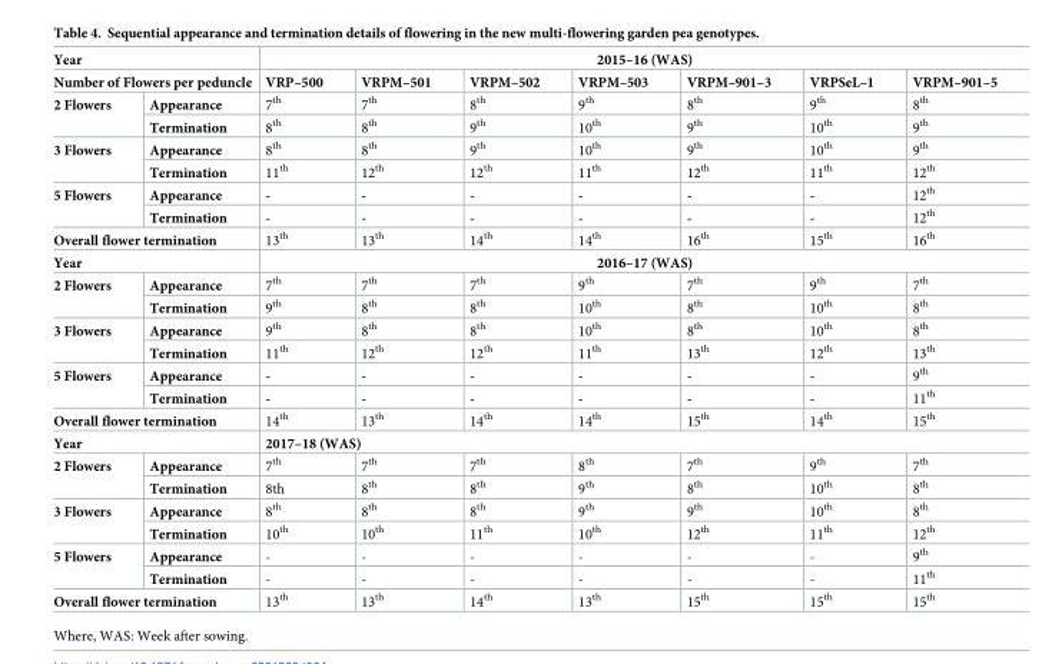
<table><tbody><tr><td colspan="2">Year</td><td colspan="7">2015–16 (WAS)</td></tr><tr><td colspan="2">Number of Flowers per peduncle</td><td>VRP–500</td><td>VRPM–501</td><td>VRPM–502</td><td>VRPM–503</td><td>VRPM–901–3</td><td>VRPSeL–1</td><td>VRPM–901–5</td></tr><tr><td rowspan="2">2 Flowers</td><td>Appearance</td><td>7<sup>th</sup></td><td>7<sup>th</sup></td><td>8<sup>th</sup></td><td>9<sup>th</sup></td><td>8<sup>th</sup></td><td>9<sup>th</sup></td><td>8<sup>th</sup></td></tr><tr><td>Termination</td><td>8<sup>th</sup></td><td>8<sup>th</sup></td><td>9<sup>th</sup></td><td>10<sup>th</sup></td><td>9<sup>th</sup></td><td>10<sup>th</sup></td><td>9<sup>th</sup></td></tr><tr><td rowspan="2">3 Flowers</td><td>Appearance</td><td>8<sup>th</sup></td><td>8<sup>th</sup></td><td>9<sup>th</sup></td><td>10<sup>th</sup></td><td>9<sup>th</sup></td><td>10<sup>th</sup></td><td>9<sup>th</sup></td></tr><tr><td>Termination</td><td>11<sup>th</sup></td><td>12<sup>th</sup></td><td>12<sup>th</sup></td><td>11<sup>th</sup></td><td>12<sup>th</sup></td><td>11<sup>th</sup></td><td>12<sup>th</sup></td></tr><tr><td rowspan="2">5 Flowers</td><td>Appearance</td><td>-</td><td>-</td><td>-</td><td>-</td><td>-</td><td>-</td><td>12<sup>th</sup></td></tr><tr><td>Termination</td><td>-</td><td>-</td><td>-</td><td>-</td><td>-</td><td>-</td><td>12<sup>th</sup></td></tr><tr><td colspan="2">Overall flower termination</td><td>13<sup>th</sup></td><td>13<sup>th</sup></td><td>14<sup>th</sup></td><td>14<sup>th</sup></td><td>16<sup>th</sup></td><td>15<sup>th</sup></td><td>16<sup>th</sup></td></tr><tr><td colspan="2">Year</td><td colspan="7">2016–17 (WAS)</td></tr><tr><td rowspan="2">2 Flowers</td><td>Appearance</td><td>7<sup>th</sup></td><td>7<sup>th</sup></td><td>7<sup>th</sup></td><td>9<sup>th</sup></td><td>7<sup>th</sup></td><td>9<sup>th</sup></td><td>7<sup>th</sup></td></tr><tr><td>Termination</td><td>9<sup>th</sup></td><td>8<sup>th</sup></td><td>8<sup>th</sup></td><td>10<sup>th</sup></td><td>8<sup>th</sup></td><td>10<sup>th</sup></td><td>8<sup>th</sup></td></tr><tr><td rowspan="2">3 Flowers</td><td>Appearance</td><td>9<sup>th</sup></td><td>8<sup>th</sup></td><td>8<sup>th</sup></td><td>10<sup>th</sup></td><td>8<sup>th</sup></td><td>10<sup>th</sup></td><td>8<sup>th</sup></td></tr><tr><td>Termination</td><td>11<sup>th</sup></td><td>12<sup>th</sup></td><td>12<sup>th</sup></td><td>11<sup>th</sup></td><td>13<sup>th</sup></td><td>12<sup>th</sup></td><td>13<sup>th</sup></td></tr><tr><td rowspan="2">5 Flowers</td><td>Appearance</td><td>-</td><td>-</td><td>-</td><td>-</td><td>-</td><td>-</td><td>9<sup>th</sup></td></tr><tr><td>Termination</td><td>-</td><td>-</td><td>-</td><td>-</td><td>-</td><td>-</td><td>11<sup>th</sup></td></tr><tr><td colspan="2">Overall flower termination</td><td>14<sup>th</sup></td><td>13<sup>th</sup></td><td>14<sup>th</sup></td><td>14<sup>th</sup></td><td>15<sup>th</sup></td><td>14<sup>th</sup></td><td>15<sup>th</sup></td></tr><tr><td colspan="2">Year</td><td colspan="7">2017–18 (WAS)</td></tr><tr><td rowspan="2">2 Flowers</td><td>Appearance</td><td>7<sup>th</sup></td><td>7<sup>th</sup></td><td>7<sup>th</sup></td><td>8<sup>th</sup></td><td>7<sup>th</sup></td><td>9<sup>th</sup></td><td>7<sup>th</sup></td></tr><tr><td>Termination</td><td>8th</td><td>8<sup>th</sup></td><td>8<sup>th</sup></td><td>9<sup>th</sup></td><td>8<sup>th</sup></td><td>10<sup>th</sup></td><td>8<sup>th</sup></td></tr><tr><td rowspan="2">3 Flowers</td><td>Appearance</td><td>8<sup>th</sup></td><td>8<sup>th</sup></td><td>8<sup>th</sup></td><td>9<sup>th</sup></td><td>9<sup>th</sup></td><td>10<sup>th</sup></td><td>8<sup>th</sup></td></tr><tr><td>Termination</td><td>10<sup>th</sup></td><td>10<sup>th</sup></td><td>11<sup>th</sup></td><td>10<sup>th</sup></td><td>12<sup>th</sup></td><td>11<sup>th</sup></td><td>12<sup>th</sup></td></tr><tr><td rowspan="2">5 Flowers</td><td>Appearance</td><td>-</td><td>-</td><td>-</td><td>-</td><td>-</td><td>-</td><td>9<sup>th</sup></td></tr><tr><td>Termination</td><td>-</td><td>-</td><td>-</td><td>-</td><td>-</td><td>-</td><td>11<sup>th</sup></td></tr><tr><td colspan="2">Overall flower termination</td><td>13<sup>th</sup></td><td>13<sup>th</sup></td><td>14<sup>th</sup></td><td>13<sup>th</sup></td><td>15<sup>th</sup></td><td>15<sup>th</sup></td><td>15<sup>th</sup></td></tr></tbody></table>